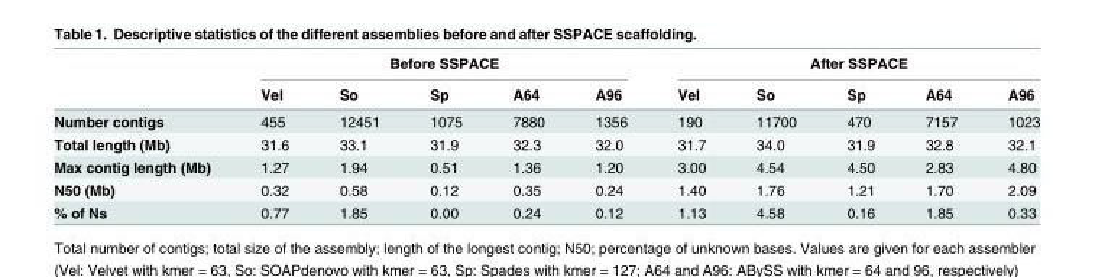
<table><thead><tr><td rowspan="2"></td><td colspan="5">Before SSPACE</td><td colspan="5">After SSPACE</td></tr><tr><td>Vel</td><td>So</td><td>Sp</td><td>A64</td><td>A96</td><td>Vel</td><td>So</td><td>Sp</td><td>A64</td><td>A96</td></tr></thead><tbody><tr><td>Number contigs</td><td>455</td><td>12451</td><td>1075</td><td>7880</td><td>1356</td><td>190</td><td>11700</td><td>470</td><td>7157</td><td>1023</td></tr><tr><td>Total length (Mb)</td><td>31.6</td><td>33.1</td><td>31.9</td><td>32.3</td><td>32.0</td><td>31.7</td><td>34.0</td><td>31.9</td><td>32.8</td><td>32.1</td></tr><tr><td>Max contig length (Mb)</td><td>1.27</td><td>1.94</td><td>0.51</td><td>1.36</td><td>1.20</td><td>3.00</td><td>4.54</td><td>4.50</td><td>2.83</td><td>4.80</td></tr><tr><td>N50 (Mb)</td><td>0.32</td><td>0.58</td><td>0.12</td><td>0.35</td><td>0.24</td><td>1.40</td><td>1.76</td><td>1.21</td><td>1.70</td><td>2.09</td></tr><tr><td>% of Ns</td><td>0.77</td><td>1.85</td><td>0.00</td><td>0.24</td><td>0.12</td><td>1.13</td><td>4.58</td><td>0.16</td><td>1.85</td><td>0.33</td></tr></tbody></table>